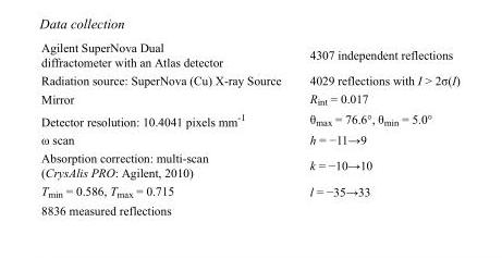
<table><tbody><tr><td>Agilent SuperNova Dual diffractometer with an Atlas detector</td><td>4307 independent reflections</td></tr><tr><td>Radiation source: SuperNova (Cu) X-ray Source</td><td>4029 reflections with I &gt; 2σ(I)</td></tr><tr><td>Mirror</td><td>R<sub>int</sub> = 0.017</td></tr><tr><td>Detector resolution: 10.4041 pixels mm<sup>-1</sup></td><td>θ<sub>max</sub> = 76.6°, θ<sub>min</sub> = 5.0°</td></tr><tr><td>ω scan</td><td>h = −11→9</td></tr><tr><td>Absorption correction: multi-scan (CrysAlis PRO: Agilent, 2010)</td><td>k = −10→10</td></tr><tr><td>T<sub>min</sub> = 0.586, T<sub>max</sub> = 0.715</td><td>l = −35→33</td></tr><tr><td>8836 measured reflections</td><td></td></tr></tbody></table>